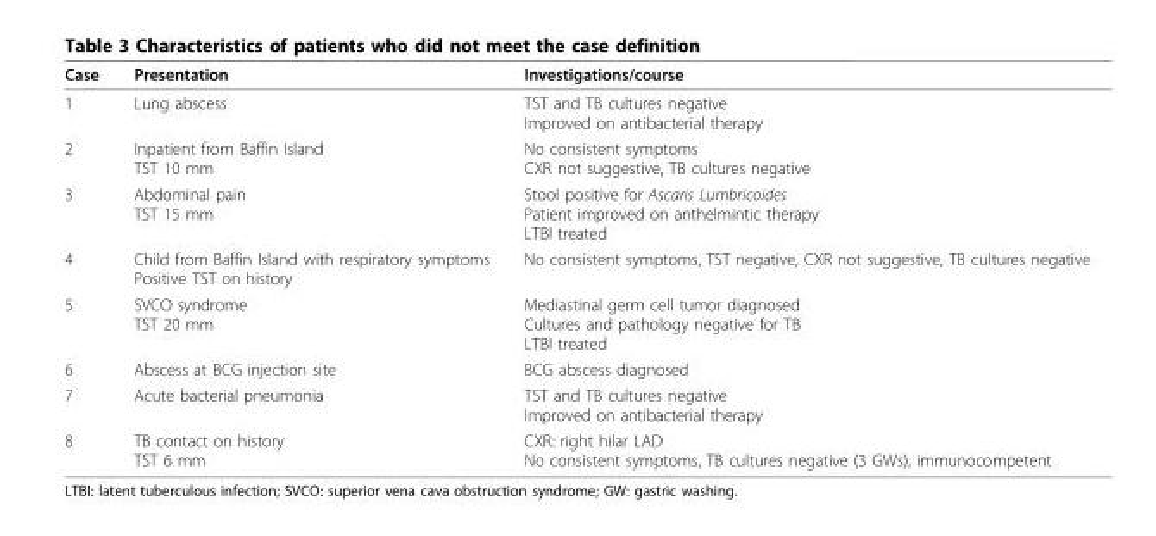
<table><thead><tr><td>Case</td><td>Presentation</td><td>Investigations/course</td></tr></thead><tbody><tr><td>1</td><td>Lung abscess</td><td>TST and TB cultures negative Improved on antibacterial therapy</td></tr><tr><td>2</td><td>Inpatient from Baffin Island TST 10 mm</td><td>No consistent symptoms CXR not suggestive, TB cultures negative</td></tr><tr><td>3</td><td>Abdominal pain TST 15 mm</td><td>Stool positive for Ascaris Lumbricoides Patient improved on anthelmintic therapy LTBI treated</td></tr><tr><td>4</td><td>Child from Baffin Island with respiratory symptoms Positive TST on history</td><td>No consistent symptoms, TST negative, CXR not suggestive, TB cultures negative</td></tr><tr><td>5</td><td>SVCO syndrome TST 20 mm</td><td>Mediastinal germ cell tumor diagnosed Cultures and pathology negative for TB LTBI treated</td></tr><tr><td>6</td><td>Abscess at BCG injection site</td><td>BCG abscess diagnosed</td></tr><tr><td>7</td><td>Acute bacterial pneumonia</td><td>TST and TB cultures negative Improved on antibacterial therapy</td></tr><tr><td>8</td><td>TB contact on history TST 6 mm</td><td>CXR: right hilar LAD No consistent symptoms, TB cultures negative (3 GWs), immunocompetent</td></tr></tbody></table>